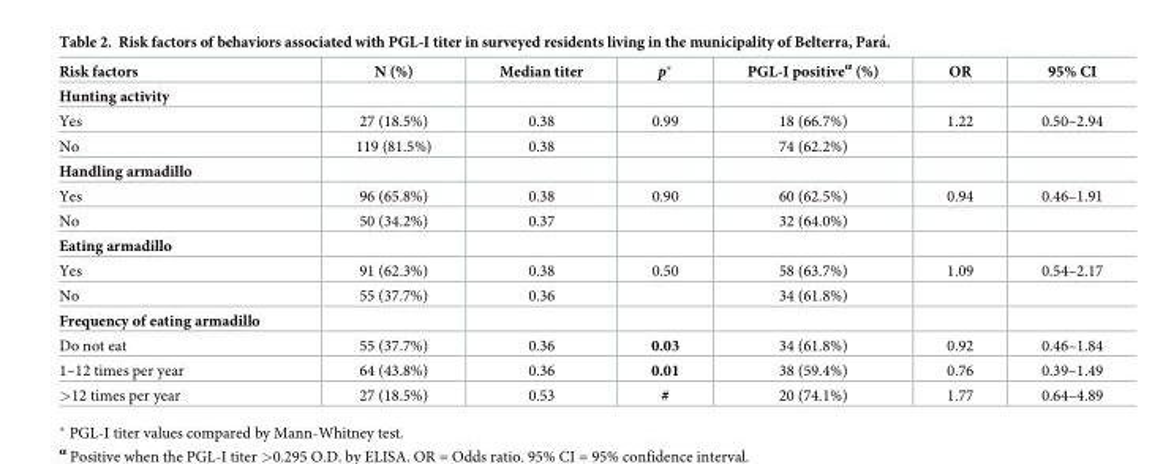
<table><thead><tr><td>Risk factors</td><td>N (%)</td><td>Median titer</td><td>p*</td><td>PGL-I positive<sup>α</sup> (%)</td><td>OR</td><td>95% CI</td></tr></thead><tbody><tr><td colspan="7">Hunting activity</td></tr><tr><td>Yes</td><td>27 (18.5%)</td><td>0.38</td><td>0.99</td><td>18 (66.7%)</td><td>1.22</td><td>0.50–2.94</td></tr><tr><td>No</td><td>119 (81.5%)</td><td>0.38</td><td></td><td>74 (62.2%)</td><td></td><td></td></tr><tr><td colspan="7">Handling armadillo</td></tr><tr><td>Yes</td><td>96 (65.8%)</td><td>0.38</td><td>0.90</td><td>60 (62.5%)</td><td>0.94</td><td>0.46–1.91</td></tr><tr><td>No</td><td>50 (34.2%)</td><td>0.37</td><td></td><td>32 (64.0%)</td><td></td><td></td></tr><tr><td colspan="7">Eating armadillo</td></tr><tr><td>Yes</td><td>91 (62.3%)</td><td>0.38</td><td>0.50</td><td>58 (63.7%)</td><td>1.09</td><td>0.54–2.17</td></tr><tr><td>No</td><td>55 (37.7%)</td><td>0.36</td><td></td><td>34 (61.8%)</td><td></td><td></td></tr><tr><td colspan="7">Frequency of eating armadillo</td></tr><tr><td>Do not eat</td><td>55 (37.7%)</td><td>0.36</td><td>0.03</td><td>34 (61.8%)</td><td>0.92</td><td>0.46–1.84</td></tr><tr><td>1–12 times per year</td><td>64 (43.8%)</td><td>0.36</td><td>0.01</td><td>38 (59.4%)</td><td>0.76</td><td>0.39–1.49</td></tr><tr><td>&gt;12 times per year</td><td>27 (18.5%)</td><td>0.53</td><td>#</td><td>20 (74.1%)</td><td>1.77</td><td>0.64–4.89</td></tr></tbody></table>